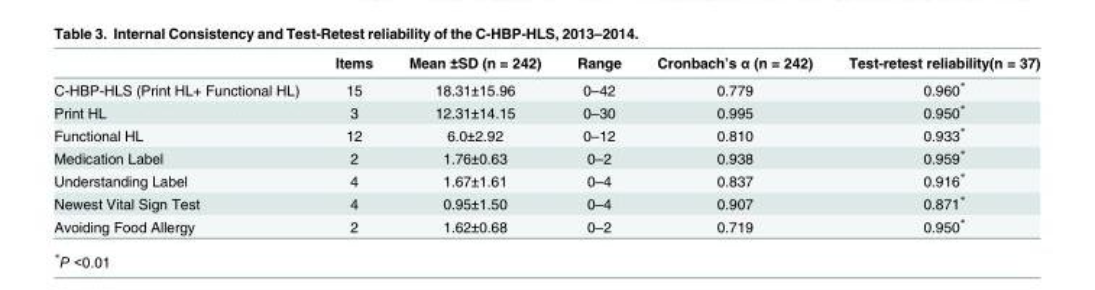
<table><thead><tr><td></td><td>Items</td><td>Mean ±SD (n = 242)</td><td>Range</td><td>Cronbach’s α (n = 242)</td><td>Test-retest reliability(n = 37)</td></tr></thead><tbody><tr><td>C-HBP-HLS (Print HL+ Functional HL)</td><td>15</td><td>18.31±15.96</td><td>0–42</td><td>0.779</td><td>0.960*</td></tr><tr><td>Print HL</td><td>3</td><td>12.31±14.15</td><td>0–30</td><td>0.995</td><td>0.950*</td></tr><tr><td>Functional HL</td><td>12</td><td>6.0±2.92</td><td>0–12</td><td>0.810</td><td>0.933*</td></tr><tr><td>Medication Label</td><td>2</td><td>1.76±0.63</td><td>0–2</td><td>0.938</td><td>0.959*</td></tr><tr><td>Understanding Label</td><td>4</td><td>1.67±1.61</td><td>0–4</td><td>0.837</td><td>0.916*</td></tr><tr><td>Newest Vital Sign Test</td><td>4</td><td>0.95±1.50</td><td>0–4</td><td>0.907</td><td>0.871*</td></tr><tr><td>Avoiding Food Allergy</td><td>2</td><td>1.62±0.68</td><td>0–2</td><td>0.719</td><td>0.950*</td></tr></tbody></table>